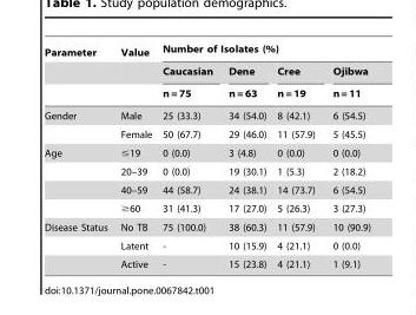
<table><thead><tr><td rowspan="3">Parameter</td><td rowspan="3">Value</td><td colspan="4">Number of Isolates (%)</td></tr><tr><td rowspan="2">Caucasian n = 75</td><td rowspan="2">Dene n = 63</td><td rowspan="2">Cree n = 19</td><td rowspan="2">Ojibwa n = 11</td></tr><tr></tr></thead><tbody><tr><td rowspan="2">Gender</td><td>Male</td><td>25 (33.3)</td><td>34 (54.0)</td><td>8 (42.1)</td><td>6 (54.5)</td></tr><tr><td>Female</td><td>50 (67.7)</td><td>29 (46.0)</td><td>11 (57.9)</td><td>5 (45.5)</td></tr><tr><td rowspan="4">Age</td><td>≤19</td><td>0 (0.0)</td><td>3 (4.8)</td><td>0 (0.0)</td><td>0 (0.0)</td></tr><tr><td>20–39</td><td>0 (0.0)</td><td>19 (30.1)</td><td>1 (5.3)</td><td>2 (18.2)</td></tr><tr><td>40–59</td><td>44 (58.7)</td><td>24 (38.1)</td><td>14 (73.7)</td><td>6 (54.5)</td></tr><tr><td>≥60</td><td>31 (41.3)</td><td>17 (27.0)</td><td>5 (26.3)</td><td>3 (27.3)</td></tr><tr><td rowspan="3">Disease Status</td><td>No TB</td><td>75 (100.0)</td><td>38 (60.3)</td><td>11 (57.9)</td><td>10 (90.9)</td></tr><tr><td>Latent</td><td>-</td><td>10 (15.9)</td><td>4 (21.1)</td><td>0 (0.0)</td></tr><tr><td>Active</td><td>-</td><td>15 (23.8)</td><td>4 (21.1)</td><td>1 (9.1)</td></tr></tbody></table>